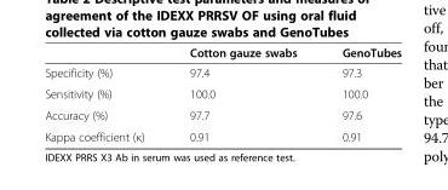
<table><thead><tr><td></td><td>Cotton gauze swabs</td><td>GenoTubes</td></tr></thead><tbody><tr><td>Specificity (%)</td><td>97.4</td><td>97.3</td></tr><tr><td>Sensitivity (%)</td><td>100.0</td><td>100.0</td></tr><tr><td>Accuracy (%)</td><td>97.7</td><td>97.6</td></tr><tr><td>Kappa coefficient (κ)</td><td>0.91</td><td>0.91</td></tr></tbody></table>